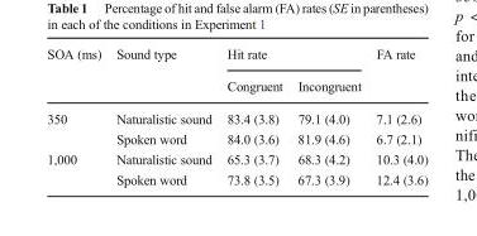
<table><thead><tr><td rowspan="2">SOA (ms)</td><td rowspan="2">Sound type</td><td colspan="2">Hit rate</td><td rowspan="2">FA rate</td></tr><tr><td>Congruent</td><td>Incongruent</td></tr></thead><tbody><tr><td rowspan="2">350</td><td>Naturalistic sound</td><td>83.4 (3.8)</td><td>79.1 (4.0)</td><td>7.1 (2.6)</td></tr><tr><td>Spoken word</td><td>84.0 (3.6)</td><td>81.9 (4.6)</td><td>6.7 (2.1)</td></tr><tr><td rowspan="2">1,000</td><td>Naturalistic sound</td><td>65.3 (3.7)</td><td>68.3 (4.2)</td><td>10.3 (4.0)</td></tr><tr><td>Spoken word</td><td>73.8 (3.5)</td><td>67.3 (3.9)</td><td>12.4 (3.6)</td></tr></tbody></table>